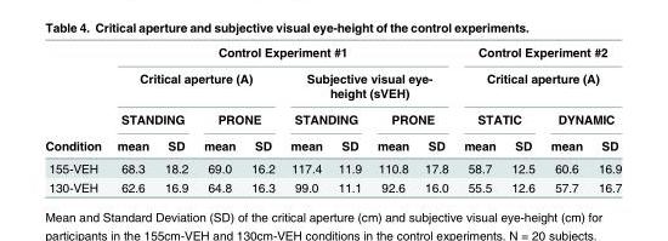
<table><thead><tr><td rowspan="4">Condition</td><td colspan="8">Control Experiment #1</td><td rowspan="2" colspan="4">Control Experiment #2 Critical aperture (A)</td></tr><tr><td colspan="4">Critical aperture (A)</td><td colspan="4">Subjective visual eye- height (sVEH)</td></tr><tr><td colspan="2">STANDING</td><td colspan="2">PRONE</td><td colspan="2">STANDING</td><td colspan="2">PRONE</td><td colspan="2">STATIC</td><td colspan="2">DYNAMIC</td></tr><tr><td>mean</td><td>SD</td><td>mean</td><td>SD</td><td>mean</td><td>SD</td><td>mean</td><td>SD</td><td>mean</td><td>SD</td><td>mean</td><td>SD</td></tr></thead><tbody><tr><td>155-VEH</td><td>68.3</td><td>18.2</td><td>69.0</td><td>16.2</td><td>117.4</td><td>11.9</td><td>110.8</td><td>17.8</td><td>58.7</td><td>12.5</td><td>60.6</td><td>16.9</td></tr><tr><td>130-VEH</td><td>62.6</td><td>16.9</td><td>64.8</td><td>16.3</td><td>99.0</td><td>11.1</td><td>92.6</td><td>16.0</td><td>55.5</td><td>12.6</td><td>57.7</td><td>16.7</td></tr></tbody></table>